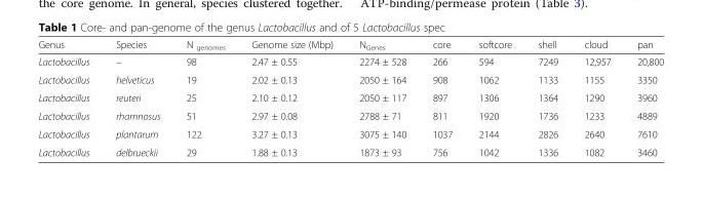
<table><thead><tr><td>Genus</td><td>Species</td><td>N <sub>genomes</sub></td><td>Genome size (Mbp)</td><td>N<sub>Genes</sub></td><td>core</td><td>softcore</td><td>shell</td><td>cloud</td><td>pan</td></tr></thead><tbody><tr><td>Lactobacillus</td><td>–</td><td>98</td><td>2.47 ± 0.55</td><td>2274 ± 528</td><td>266</td><td>594</td><td>7249</td><td>12,957</td><td>20,800</td></tr><tr><td>Lactobacillus</td><td>helveticus</td><td>19</td><td>2.02 ± 0.13</td><td>2050 ± 164</td><td>908</td><td>1062</td><td>1133</td><td>1155</td><td>3350</td></tr><tr><td>Lactobacillus</td><td>reuteri</td><td>25</td><td>2.10 ± 0.12</td><td>2050 ± 117</td><td>897</td><td>1306</td><td>1364</td><td>1290</td><td>3960</td></tr><tr><td>Lactobacillus</td><td>rhamnosus</td><td>51</td><td>2.97 ± 0.08</td><td>2788 ± 71</td><td>811</td><td>1920</td><td>1736</td><td>1233</td><td>4889</td></tr><tr><td>Lactobacillus</td><td>plantarum</td><td>122</td><td>3.27 ± 0.13</td><td>3075 ± 140</td><td>1037</td><td>2144</td><td>2826</td><td>2640</td><td>7610</td></tr><tr><td>Lactobacillus</td><td>delbrueckii</td><td>29</td><td>1.88 ± 0.13</td><td>1873 ± 93</td><td>756</td><td>1042</td><td>1336</td><td>1082</td><td>3460</td></tr></tbody></table>